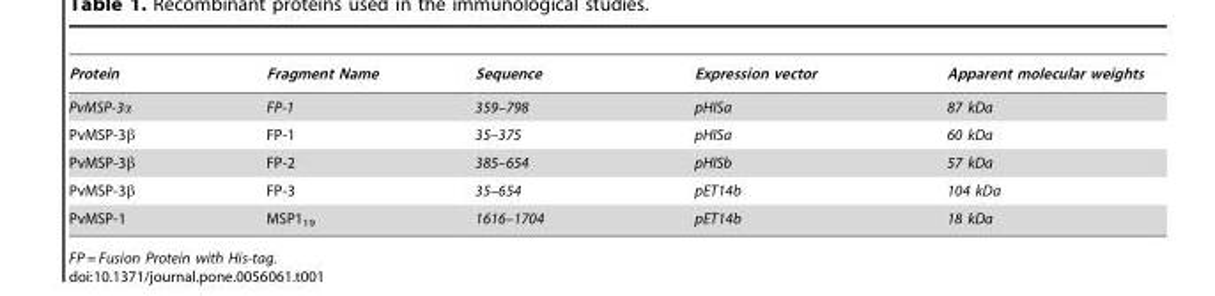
<table><thead><tr><td>Protein</td><td>Fragment Name</td><td>Sequence</td><td>Expression vector</td><td>Apparent molecular weights</td></tr></thead><tbody><tr><td>PvMSP-3α</td><td>FP-1</td><td>359–798</td><td>pHISa</td><td>87 kDa</td></tr><tr><td>PvMSP-3β</td><td>FP-1</td><td>35–375</td><td>pHISa</td><td>60 kDa</td></tr><tr><td>PvMSP-3β</td><td>FP-2</td><td>385–654</td><td>pHISb</td><td>57 kDa</td></tr><tr><td>PvMSP-3β</td><td>FP-3</td><td>35–654</td><td>pET14b</td><td>104 kDa</td></tr><tr><td>PvMSP-1</td><td>MSP1<sub>19</sub></td><td>1616–1704</td><td>pET14b</td><td>18 kDa</td></tr></tbody></table>